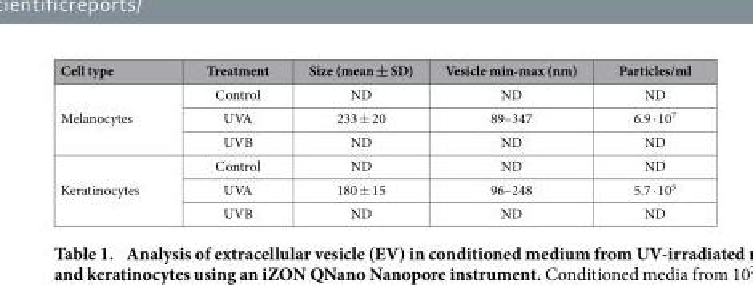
<table><thead><tr><td>Cell type</td><td>Treatment</td><td>Size (mean ± SD)</td><td>Vesicle min-max (nm)</td><td>Particles/ml</td></tr></thead><tbody><tr><td rowspan="3">Melanocytes</td><td>Control</td><td>ND</td><td>ND</td><td>ND</td></tr><tr><td>UVA</td><td>233 ± 20</td><td>89–347</td><td>6.9 · 10<sup>7</sup></td></tr><tr><td>UVB</td><td>ND</td><td>ND</td><td>ND</td></tr><tr><td rowspan="3">Keratinocytes</td><td>Control</td><td>ND</td><td>ND</td><td>ND</td></tr><tr><td>UVA</td><td>180 ± 15</td><td>96–248</td><td>5.7 · 10<sup>5</sup></td></tr><tr><td>UVB</td><td>ND</td><td>ND</td><td>ND</td></tr></tbody></table>